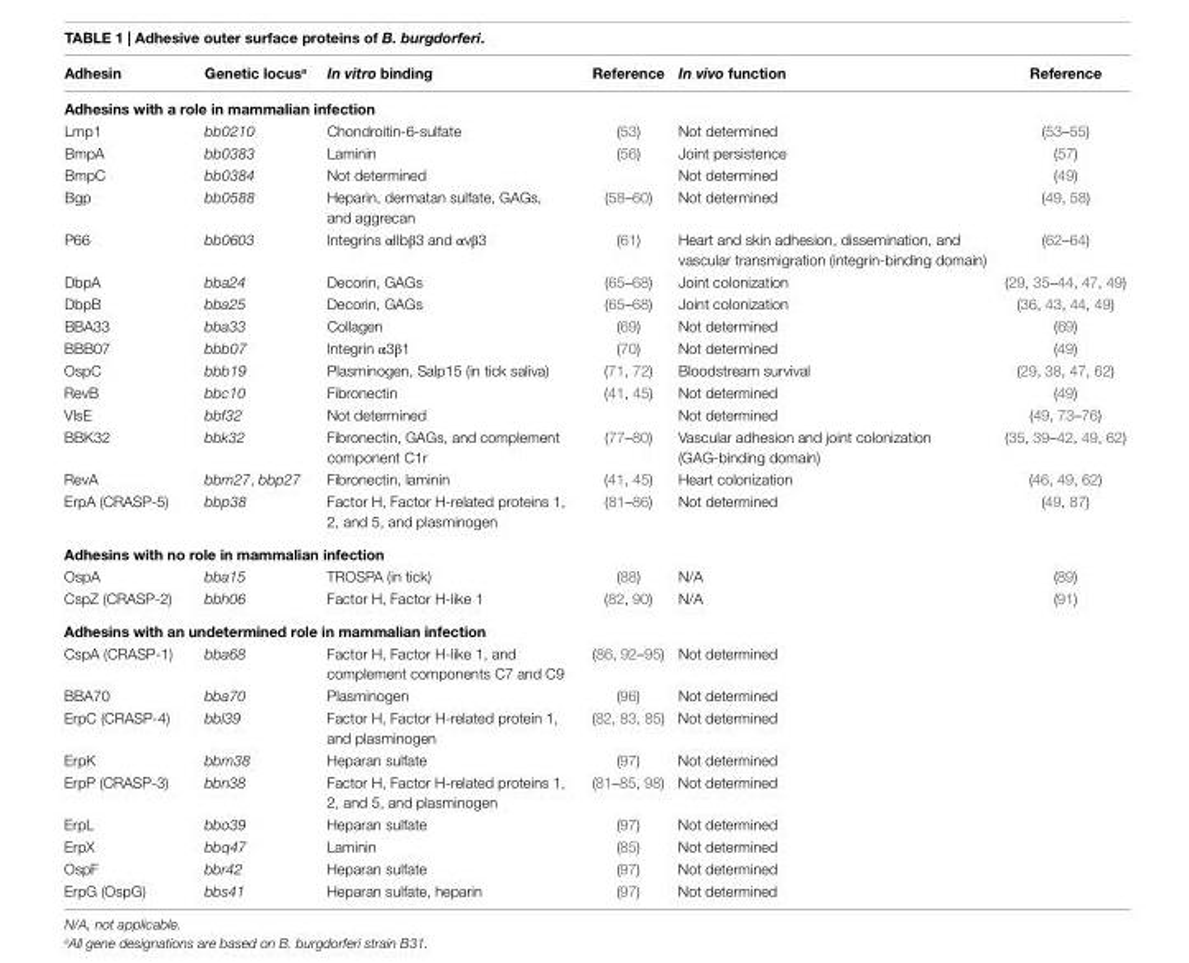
<table><thead><tr><td>Adhesin</td><td>Genetic locus<sup>a</sup></td><td>In vitro binding</td><td>Reference</td><td>In vivo function</td><td>Reference</td></tr></thead><tbody><tr><td colspan="6">Adhesins with a role in mammalian infection</td></tr><tr><td>Lmp1</td><td>bb0210</td><td>Chondroitin-6-sulfate</td><td>(53)</td><td>Not determined</td><td>(53–55)</td></tr><tr><td>BmpA</td><td>bb0383</td><td>Laminin</td><td>(56)</td><td>Joint persistence</td><td>(57)</td></tr><tr><td>BmpC</td><td>bb0384</td><td>Not determined</td><td></td><td>Not determined</td><td>(49)</td></tr><tr><td>Bgp</td><td>bb0588</td><td>Heparin, dermatan sulfate, GAGs, and aggrecan</td><td>(58–60)</td><td>Not determined</td><td>(49, 58)</td></tr><tr><td>P66</td><td>bb0603</td><td>Integrins αIIbβ3 and αvβ3</td><td>(61)</td><td>Heart and skin adhesion, dissemination, and vascular transmigration (integrin-binding domain)</td><td>(62–64)</td></tr><tr><td>DbpA</td><td>bba24</td><td>Decorin, GAGs</td><td>(65–68)</td><td>Joint colonization</td><td>(29, 35–44, 47, 49)</td></tr><tr><td>DbpB</td><td>bba25</td><td>Decorin, GAGs</td><td>(65–68)</td><td>Joint colonization</td><td>(36, 43, 44, 49)</td></tr><tr><td>BBA33</td><td>bba33</td><td>Collagen</td><td>(69)</td><td>Not determined</td><td>(69)</td></tr><tr><td>BBB07</td><td>bbb07</td><td>Integrin α3β1</td><td>(70)</td><td>Not determined</td><td>(49)</td></tr><tr><td>OspC</td><td>bbb19</td><td>Plasminogen, Salp15 (in tick saliva)</td><td>(71, 72)</td><td>Bloodstream survival</td><td>(29, 38, 47, 62)</td></tr><tr><td>RevB</td><td>bbc10</td><td>Fibronectin</td><td>(41, 45)</td><td>Not determined</td><td>(49)</td></tr><tr><td>VlsE</td><td>bbf32</td><td>Not determined</td><td></td><td>Not determined</td><td>(49, 73–76)</td></tr><tr><td>BBK32</td><td>bbk32</td><td>Fibronectin, GAGs, and complement component C1r</td><td>(77–80)</td><td>Vascular adhesion and joint colonization (GAG-binding domain)</td><td>(35, 39–42, 49, 62)</td></tr><tr><td>RevA</td><td>bbm27, bbp27</td><td>Fibronectin, laminin</td><td>(41, 45)</td><td>Heart colonization</td><td>(46, 49, 62)</td></tr><tr><td>ErpA (CRASP-5)</td><td>bbp38</td><td>Factor H, Factor H-related proteins 1, 2, and 5, and plasminogen</td><td>(81–86)</td><td>Not determined</td><td>(49, 87)</td></tr><tr><td colspan="6">Adhesins with no role in mammalian infection</td></tr><tr><td>OspA</td><td>bba15</td><td>TROSPA (in tick)</td><td>(88)</td><td>N/A</td><td>(89)</td></tr><tr><td>CspZ (CRASP-2)</td><td>bbh06</td><td>Factor H, Factor H-like 1</td><td>(82, 90)</td><td>N/A</td><td>(91)</td></tr><tr><td colspan="6">Adhesins with an undetermined role in mammalian infection</td></tr><tr><td>CspA (CRASP-1)</td><td>bba68</td><td>Factor H, Factor H-like 1, and complement components C7 and C9</td><td>(86, 92–95)</td><td>Not determined</td><td></td></tr><tr><td>BBA70</td><td>bba70</td><td>Plasminogen</td><td>(96)</td><td>Not determined</td><td></td></tr><tr><td>ErpC (CRASP-4)</td><td>bbl39</td><td>Factor H, Factor H-related protein 1, and plasminogen</td><td>(82, 83, 85)</td><td>Not determined</td><td></td></tr><tr><td>ErpK</td><td>bbm38</td><td>Heparan sulfate</td><td>(97)</td><td>Not determined</td><td></td></tr><tr><td>ErpP (CRASP-3)</td><td>bbn38</td><td>Factor H, Factor H-related proteins 1, 2, and 5, and plasminogen</td><td>(81–85, 98)</td><td>Not determined</td><td></td></tr><tr><td>ErpL</td><td>bbo39</td><td>Heparan sulfate</td><td>(97)</td><td>Not determined</td><td></td></tr><tr><td>ErpX</td><td>bbq47</td><td>Laminin</td><td>(85)</td><td>Not determined</td><td></td></tr><tr><td>OspF</td><td>bbr42</td><td>Heparan sulfate</td><td>(97)</td><td>Not determined</td><td></td></tr><tr><td>ErpG (OspG)</td><td>bbs41</td><td>Heparan sulfate, heparin</td><td>(97)</td><td>Not determined</td><td></td></tr></tbody></table>